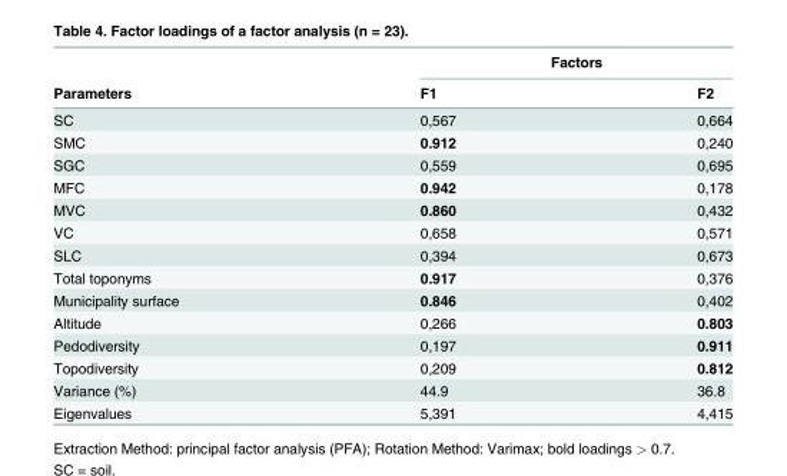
<table><thead><tr><td rowspan="2">Parameters</td><td colspan="2">Factors</td></tr><tr><td>F1</td><td>F2</td></tr></thead><tbody><tr><td>SC</td><td>0,567</td><td>0,664</td></tr><tr><td>SMC</td><td>0.912</td><td>0,240</td></tr><tr><td>SGC</td><td>0,559</td><td>0,695</td></tr><tr><td>MFC</td><td>0.942</td><td>0,178</td></tr><tr><td>MVC</td><td>0.860</td><td>0,432</td></tr><tr><td>VC</td><td>0,658</td><td>0,571</td></tr><tr><td>SLC</td><td>0,394</td><td>0,673</td></tr><tr><td>Total toponyms</td><td>0.917</td><td>0,376</td></tr><tr><td>Municipality surface</td><td>0.846</td><td>0,402</td></tr><tr><td>Altitude</td><td>0,266</td><td>0.803</td></tr><tr><td>Pedodiversity</td><td>0,197</td><td>0.911</td></tr><tr><td>Topodiversity</td><td>0,209</td><td>0.812</td></tr><tr><td>Variance (%)</td><td>44.9</td><td>36.8</td></tr><tr><td>Eigenvalues</td><td>5,391</td><td>4,415</td></tr></tbody></table>